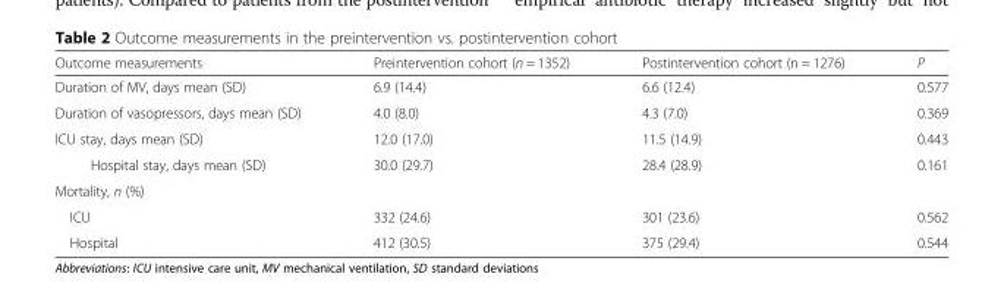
<table><thead><tr><td>Outcome measurements</td><td>Preintervention cohort (n = 1352)</td><td>Postintervention cohort (n = 1276)</td><td>P</td></tr></thead><tbody><tr><td>Duration of MV, days mean (SD)</td><td>6.9 (14.4)</td><td>6.6 (12.4)</td><td>0.577</td></tr><tr><td>Duration of vasopressors, days mean (SD)</td><td>4.0 (8.0)</td><td>4.3 (7.0)</td><td>0.369</td></tr><tr><td>ICU stay, days mean (SD)</td><td>12.0 (17.0)</td><td>11.5 (14.9)</td><td>0.443</td></tr><tr><td>Hospital stay, days mean (SD)</td><td>30.0 (29.7)</td><td>28.4 (28.9)</td><td>0.161</td></tr><tr><td colspan="4">Mortality, n (%)</td></tr><tr><td>ICU</td><td>332 (24.6)</td><td>301 (23.6)</td><td>0.562</td></tr><tr><td>Hospital</td><td>412 (30.5)</td><td>375 (29.4)</td><td>0.544</td></tr></tbody></table>